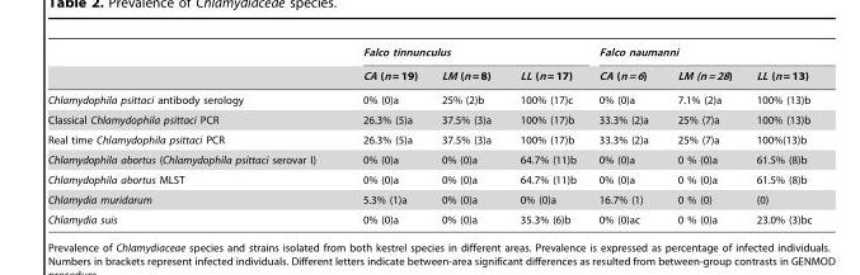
<table><thead><tr><td rowspan="2"></td><td colspan="3">Falco tinnunculus</td><td colspan="3">Falco naumanni</td></tr><tr><td>CA (n = 19)</td><td>LM (n = 8)</td><td>LL (n = 17)</td><td>CA (n = 6)</td><td>LM (n = 28)</td><td>LL (n = 13)</td></tr></thead><tbody><tr><td>Chlamydophila psittaci antibody serology</td><td>0% (0)a</td><td>25% (2)b</td><td>100% (17)c</td><td>0% (0)a</td><td>7.1% (2)a</td><td>100% (13)b</td></tr><tr><td>Classical Chlamydophila psittaci PCR</td><td>26.3% (5)a</td><td>37.5% (3)a</td><td>100% (17)b</td><td>33.3% (2)a</td><td>25% (7)a</td><td>100% (13)b</td></tr><tr><td>Real time Chlamydophila psittaci PCR</td><td>26.3% (5)a</td><td>37.5% (3)a</td><td>100% (17)b</td><td>33.3% (2)a</td><td>25% (7)a</td><td>100%(13)b</td></tr><tr><td>Chlamydophila abortus (Chlamydophila psittaci serovar I)</td><td>0% (0)a</td><td>0% (0)a</td><td>64.7% (11)b</td><td>0% (0)a</td><td>0 % (0)a</td><td>61.5% (8)b</td></tr><tr><td>Chlamydophila abortus MLST</td><td>0% (0)a</td><td>0% (0)a</td><td>64.7% (11)b</td><td>0% (0)a</td><td>0 % (0)a</td><td>61.5% (8)b</td></tr><tr><td>Chlamydia muridarum</td><td>5.3% (1)a</td><td>0% (0)a</td><td>0% (0)a</td><td>16.7% (1)</td><td>0 % (0)</td><td>(0)</td></tr><tr><td>Chlamydia suis</td><td>0% (0)a</td><td>0% (0)a</td><td>35.3% (6)b</td><td>0% (0)ac</td><td>0 % (0)a</td><td>23.0% (3)bc</td></tr></tbody></table>